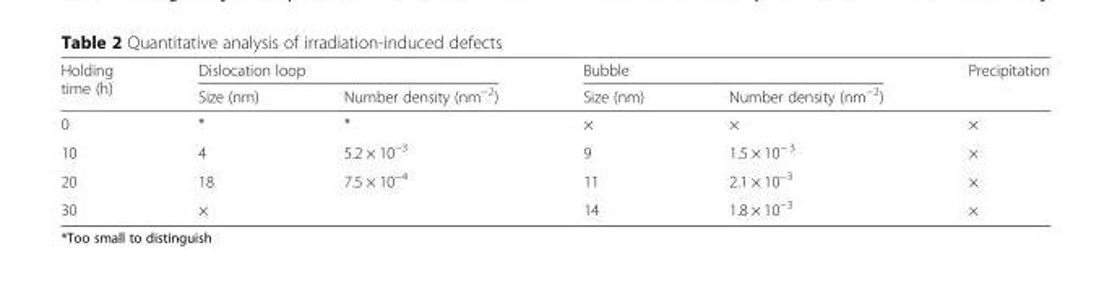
<table><thead><tr><td rowspan="2">Holding time (h)</td><td colspan="2">Dislocation loop</td><td colspan="2">Bubble</td><td rowspan="2">Precipitation</td></tr><tr><td>Size (nm)</td><td>Number density (nm<sup>−2</sup>)</td><td>Size (nm)</td><td>Number density (nm<sup>−2</sup>)</td></tr></thead><tbody><tr><td>0</td><td>*</td><td>*</td><td>×</td><td>×</td><td>×</td></tr><tr><td>10</td><td>4</td><td>5.2 × 10<sup>−3</sup></td><td>9</td><td>1.5 × 10<sup>− 3</sup></td><td>×</td></tr><tr><td>20</td><td>18</td><td>7.5 × 10<sup>−4</sup></td><td>11</td><td>2.1 × 10<sup>−3</sup></td><td>×</td></tr><tr><td>30</td><td>×</td><td></td><td>14</td><td>1.8 × 10<sup>−3</sup></td><td>×</td></tr></tbody></table>